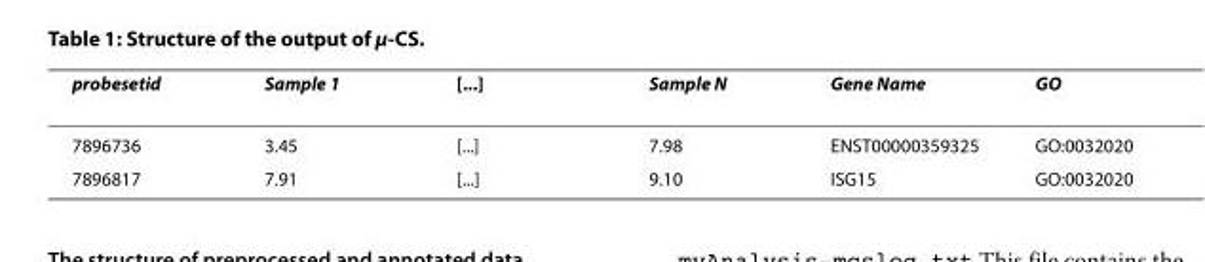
<table><thead><tr><td>probesetid</td><td>Sample 1</td><td>[...]</td><td>Sample N</td><td>Gene Name</td><td>GO</td></tr></thead><tbody><tr><td>7896736</td><td>3.45</td><td>[...]</td><td>7.98</td><td>ENST00000359325</td><td>GO:0032020</td></tr><tr><td>7896817</td><td>7.91</td><td>[...]</td><td>9.10</td><td>ISG15</td><td>GO:0032020</td></tr></tbody></table>